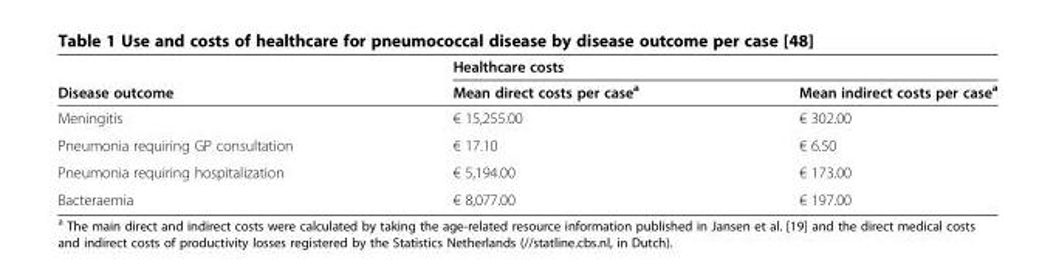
<table><thead><tr><td rowspan="2">Disease outcome</td><td colspan="2">Healthcare costs</td></tr><tr><td>Mean direct costs per case<sup>a</sup></td><td>Mean indirect costs per case<sup>a</sup></td></tr></thead><tbody><tr><td>Meningitis</td><td>€ 15,255.00</td><td>€ 302.00</td></tr><tr><td>Pneumonia requiring GP consultation</td><td>€ 17.10</td><td>€ 6.50</td></tr><tr><td>Pneumonia requiring hospitalization</td><td>€ 5,194.00</td><td>€ 173.00</td></tr><tr><td>Bacteraemia</td><td>€ 8,077.00</td><td>€ 197.00</td></tr></tbody></table>